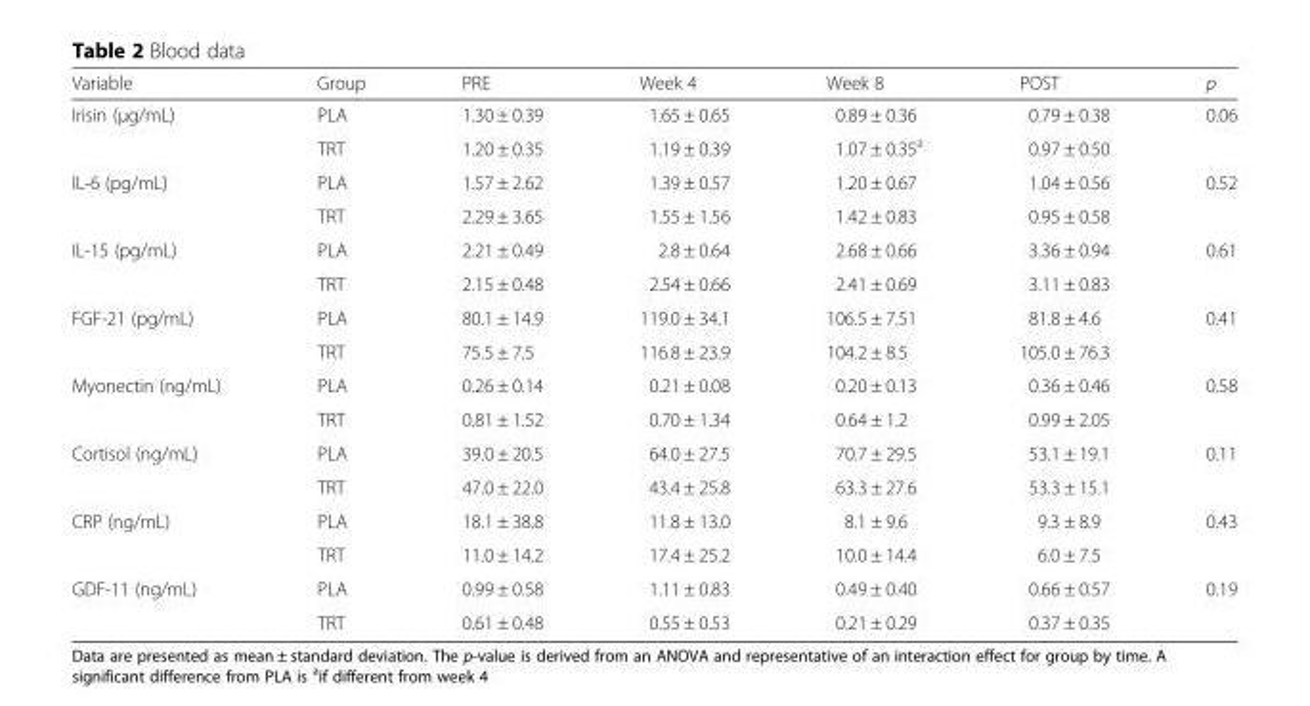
<table><thead><tr><td>Variable</td><td>Group</td><td>PRE</td><td>Week 4</td><td>Week 8</td><td>POST</td><td>p</td></tr></thead><tbody><tr><td rowspan="2">Irisin (μg/mL)</td><td>PLA</td><td>1.30 ± 0.39</td><td>1.65 ± 0.65</td><td>0.89 ± 0.36</td><td>0.79 ± 0.38</td><td rowspan="2">0.06</td></tr><tr><td>TRT</td><td>1.20 ± 0.35</td><td>1.19 ± 0.39</td><td>1.07 ± 0.35<sup>a</sup></td><td>0.97 ± 0.50</td></tr><tr><td rowspan="2">IL-6 (pg/mL)</td><td>PLA</td><td>1.57 ± 2.62</td><td>1.39 ± 0.57</td><td>1.20 ± 0.67</td><td>1.04 ± 0.56</td><td rowspan="2">0.52</td></tr><tr><td>TRT</td><td>2.29 ± 3.65</td><td>1.55 ± 1.56</td><td>1.42 ± 0.83</td><td>0.95 ± 0.58</td></tr><tr><td rowspan="2">IL-15 (pg/mL)</td><td>PLA</td><td>2.21 ± 0.49</td><td>2.8 ± 0.64</td><td>2.68 ± 0.66</td><td>3.36 ± 0.94</td><td rowspan="2">0.61</td></tr><tr><td>TRT</td><td>2.15 ± 0.48</td><td>2.54 ± 0.66</td><td>2.41 ± 0.69</td><td>3.11 ± 0.83</td></tr><tr><td rowspan="2">FGF-21 (pg/mL)</td><td>PLA</td><td>80.1 ± 14.9</td><td>119.0 ± 34.1</td><td>106.5 ± 7.51</td><td>81.8 ± 4.6</td><td rowspan="2">0.41</td></tr><tr><td>TRT</td><td>75.5 ± 7.5</td><td>116.8 ± 23.9</td><td>104.2 ± 8.5</td><td>105.0 ± 76.3</td></tr><tr><td rowspan="2">Myonectin (ng/mL)</td><td>PLA</td><td>0.26 ± 0.14</td><td>0.21 ± 0.08</td><td>0.20 ± 0.13</td><td>0.36 ± 0.46</td><td rowspan="2">0.58</td></tr><tr><td>TRT</td><td>0.81 ± 1.52</td><td>0.70 ± 1.34</td><td>0.64 ± 1.2</td><td>0.99 ± 2.05</td></tr><tr><td rowspan="2">Cortisol (ng/mL)</td><td>PLA</td><td>39.0 ± 20.5</td><td>64.0 ± 27.5</td><td>70.7 ± 29.5</td><td>53.1 ± 19.1</td><td rowspan="2">0.11</td></tr><tr><td>TRT</td><td>47.0 ± 22.0</td><td>43.4 ± 25.8</td><td>63.3 ± 27.6</td><td>53.3 ± 15.1</td></tr><tr><td rowspan="2">CRP (ng/mL)</td><td>PLA</td><td>18.1 ± 38.8</td><td>11.8 ± 13.0</td><td>8.1 ± 9.6</td><td>9.3 ± 8.9</td><td rowspan="2">0.43</td></tr><tr><td>TRT</td><td>11.0 ± 14.2</td><td>17.4 ± 25.2</td><td>10.0 ± 14.4</td><td>6.0 ± 7.5</td></tr><tr><td rowspan="2">GDF-11 (ng/mL)</td><td>PLA</td><td>0.99 ± 0.58</td><td>1.11 ± 0.83</td><td>0.49 ± 0.40</td><td>0.66 ± 0.57</td><td rowspan="2">0.19</td></tr><tr><td>TRT</td><td>0.61 ± 0.48</td><td>0.55 ± 0.53</td><td>0.21 ± 0.29</td><td>0.37 ± 0.35</td></tr></tbody></table>